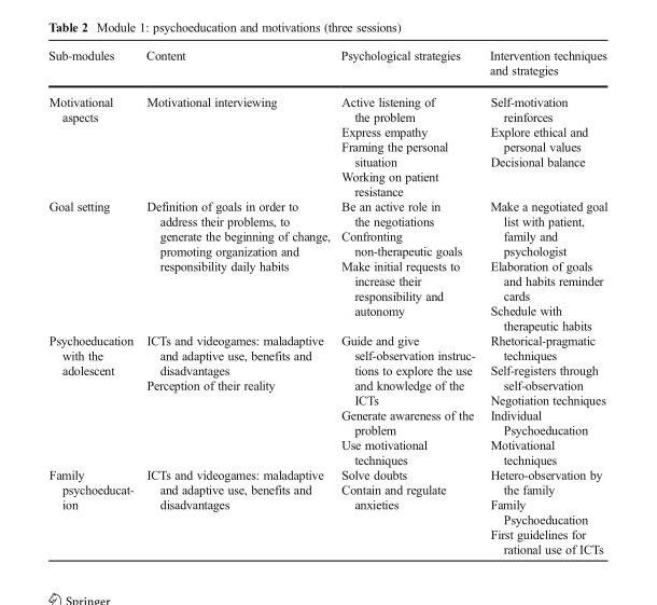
<table><thead><tr><td>Sub-modules</td><td>Content</td><td>Psychological strategies</td><td>Intervention techniques and strategies</td></tr></thead><tbody><tr><td>Motivational aspects</td><td>Motivational interviewing</td><td>Active listening of the problem Express empathy Framing the personal situation Working on patient resistance</td><td>Self-motivation reinforces Explore ethical and personal values Decisional balance</td></tr><tr><td>Goal setting</td><td>Definition of goals in order to address their problems, to generate the beginning of change, promoting organization and responsibility daily habits</td><td>Be an active role in the negotiations Confronting non-therapeutic goals Make initial requests to increase their responsibility and autonomy</td><td>Make a negotiated goal list with patient, family and psychologist Elaboration of goals and habits reminder cards Schedule with therapeutic habits</td></tr><tr><td>Psychoeducation with the adolescent</td><td>ICTs and videogames: maladaptive and adaptive use, benefits and disadvantages Perception of their reality</td><td>Guide and give self-observation instruc- tions to explore the use and knowledge of the ICTs Generate awareness of the problem Use motivational techniques</td><td>Rhetorical-pragmatic techniques Self-registers through self-observation Negotiation techniques Individual Psychoeducation Motivational techniques</td></tr><tr><td>Family psychoeducat- ion</td><td>ICTs and videogames: maladaptive and adaptive use, benefits and disadvantages</td><td>Solve doubts Contain and regulate anxieties</td><td>Hetero-observation by the family Family Psychoeducation First guidelines for rational use of ICTs</td></tr></tbody></table>